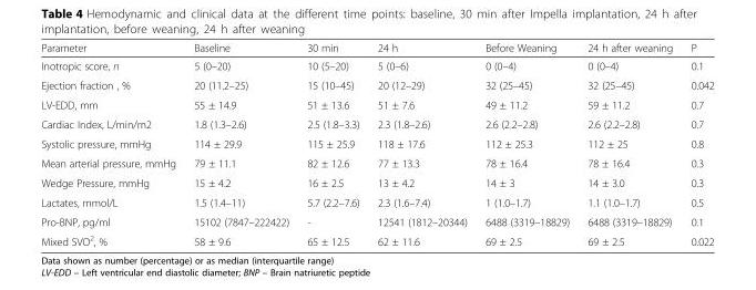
<table><thead><tr><td>Parameter</td><td>Baseline</td><td>30 min</td><td>24 h</td><td>Before Weaning</td><td>24 h after weaning</td><td>P</td></tr></thead><tbody><tr><td>Inotropic score, n</td><td>5 (0–20)</td><td>10 (5–20)</td><td>5 (0–6)</td><td>0 (0–4)</td><td>0 (0–4)</td><td>0.1</td></tr><tr><td>Ejection fraction , %</td><td>20 (11.2–25)</td><td>15 (10–45)</td><td>20 (12–29)</td><td>32 (25–45)</td><td>32 (25–45)</td><td>0.042</td></tr><tr><td>LV-EDD, mm</td><td>55 ± 14.9</td><td>51 ± 13.6</td><td>51 ± 7.6</td><td>49 ± 11.2</td><td>59 ± 11.2</td><td>0.7</td></tr><tr><td>Cardiac Index, L/min/m2</td><td>1.8 (1.3–2.6)</td><td>2.5 (1.8–3.3)</td><td>2.3 (1.8–2.6)</td><td>2.6 (2.2–2.8)</td><td>2.6 (2.2–2.8)</td><td>0.7</td></tr><tr><td>Systolic pressure, mmHg</td><td>114 ± 29.9</td><td>115 ± 25.9</td><td>118 ± 17.6</td><td>112 ± 25.3</td><td>112 ± 25</td><td>0.8</td></tr><tr><td>Mean arterial pressure, mmHg</td><td>79 ± 11.1</td><td>82 ± 12.6</td><td>77 ± 13.3</td><td>78 ± 16.4</td><td>78 ± 16.4</td><td>0.3</td></tr><tr><td>Wedge Pressure, mmHg</td><td>15 ± 4.2</td><td>16 ± 2.5</td><td>13 ± 4.2</td><td>14 ± 3</td><td>14 ± 3.0</td><td>0.3</td></tr><tr><td>Lactates, mmol/L</td><td>1.5 (1.4–11)</td><td>5.7 (2.2–7.6)</td><td>2.3 (1.6–7.4)</td><td>1 (1.0–1.7)</td><td>1.1 (1.0–1.7)</td><td>0.5</td></tr><tr><td>Pro-BNP, pg/ml</td><td>15102 (7847–222422)</td><td>-</td><td>12541 (1812–20344)</td><td>6488 (3319–18829)</td><td>6488 (3319–18829)</td><td>0.1</td></tr><tr><td>Mixed SVO<sup>2</sup>, %</td><td>58 ± 9.6</td><td>65 ± 12.5</td><td>62 ± 11.6</td><td>69 ± 2.5</td><td>69 ± 2.5</td><td>0.022</td></tr></tbody></table>